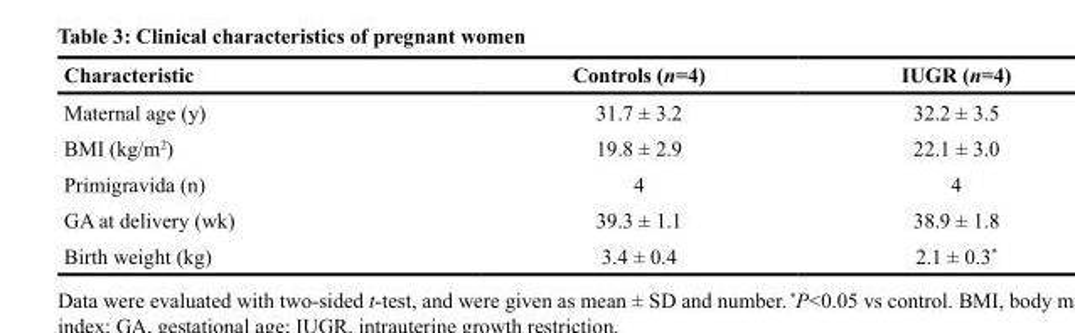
<table><thead><tr><td>Characteristic</td><td>Controls (n=4)</td><td>IUGR (n=4)</td></tr></thead><tbody><tr><td>Maternal age (y)</td><td>31.7 ± 3.2</td><td>32.2 ± 3.5</td></tr><tr><td>BMI (kg/m<sup>2</sup>)</td><td>19.8 ± 2.9</td><td>22.1 ± 3.0</td></tr><tr><td>Primigravida (n)</td><td>4</td><td>4</td></tr><tr><td>GA at delivery (wk)</td><td>39.3 ± 1.1</td><td>38.9 ± 1.8</td></tr><tr><td>Birth weight (kg)</td><td>3.4 ± 0.4</td><td>2.1 ± 0.3*</td></tr></tbody></table>